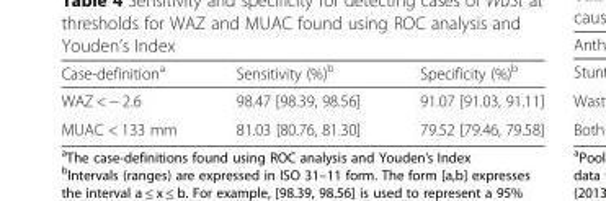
<table><thead><tr><td>Case-definition<sup>a</sup></td><td>Sensitivity (%)<sup>b</sup></td><td>Specificity (%)<sup>b</sup></td></tr></thead><tbody><tr><td>WAZ &lt; − 2.6</td><td>98.47 [98.39, 98.56]</td><td>91.07 [91.03, 91.11]</td></tr><tr><td>MUAC &lt; 133 mm</td><td>81.03 [80.76, 81.30]</td><td>79.52 [79.46, 79.58]</td></tr></tbody></table>